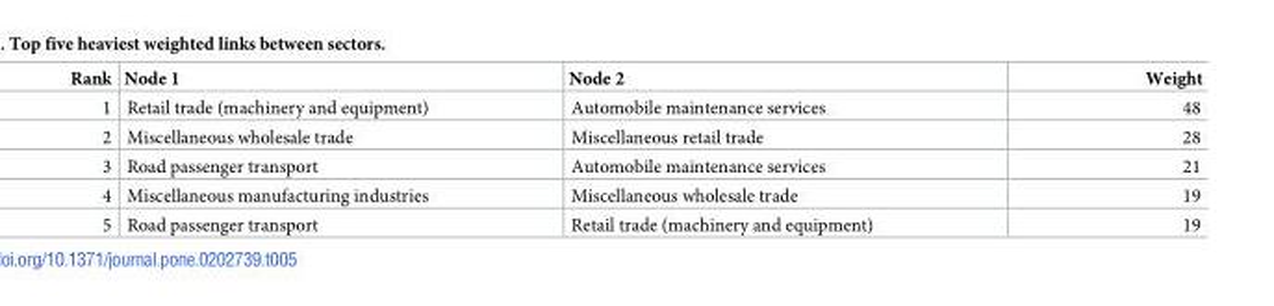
<table><thead><tr><td>Rank</td><td>Node 1</td><td>Node 2</td><td>Weight</td></tr></thead><tbody><tr><td>1</td><td>Retail trade (machinery and equipment)</td><td>Automobile maintenance services</td><td>48</td></tr><tr><td>2</td><td>Miscellaneous wholesale trade</td><td>Miscellaneous retail trade</td><td>28</td></tr><tr><td>3</td><td>Road passenger transport</td><td>Automobile maintenance services</td><td>21</td></tr><tr><td>4</td><td>Miscellaneous manufacturing industries</td><td>Miscellaneous wholesale trade</td><td>19</td></tr><tr><td>5</td><td>Road passenger transport</td><td>Retail trade (machinery and equipment)</td><td>19</td></tr></tbody></table>